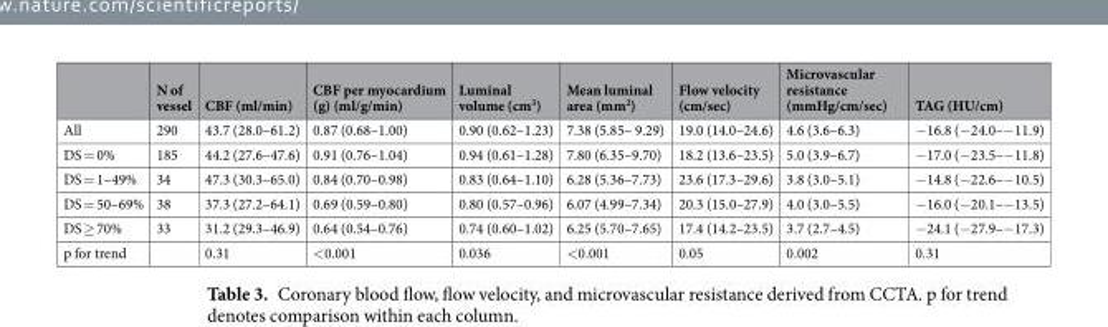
<table><thead><tr><td></td><td>N of vessel</td><td>CBF (ml/min)</td><td>CBF per myocardium (g) (ml/g/min)</td><td>Luminal volume (cm<sup>3</sup>)</td><td>Mean luminal area (mm<sup>2</sup>)</td><td>Flow velocity (cm/sec)</td><td>Microvascular resistance (mmHg/cm/sec)</td><td>TAG (HU/cm)</td></tr></thead><tbody><tr><td>All</td><td>290</td><td>43.7 (28.0–61.2)</td><td>0.87 (0.68–1.00)</td><td>0.90 (0.62–1.23)</td><td>7.38 (5.85– 9.29)</td><td>19.0 (14.0–24.6)</td><td>4.6 (3.6–6.3)</td><td>−16.8 (−24.0–−11.9)</td></tr><tr><td>DS = 0%</td><td>185</td><td>44.2 (27.6–47.6)</td><td>0.91 (0.76–1.04)</td><td>0.94 (0.61–1.28)</td><td>7.80 (6.35–9.70)</td><td>18.2 (13.6–23.5)</td><td>5.0 (3.9–6.7)</td><td>−17.0 (−23.5–−11.8)</td></tr><tr><td>DS = 1–49%</td><td>34</td><td>47.3 (30.3–65.0)</td><td>0.84 (0.70–0.98)</td><td>0.83 (0.64–1.10)</td><td>6.28 (5.36–7.73)</td><td>23.6 (17.3–29.6)</td><td>3.8 (3.0–5.1)</td><td>−14.8 (−22.6–−10.5)</td></tr><tr><td>DS = 50–69%</td><td>38</td><td>37.3 (27.2–64.1)</td><td>0.69 (0.59–0.80)</td><td>0.80 (0.57–0.96)</td><td>6.07 (4.99–7.34)</td><td>20.3 (15.0–27.9)</td><td>4.0 (3.0–5.5)</td><td>−16.0 (−20.1–−13.5)</td></tr><tr><td>DS ≥ 70%</td><td>33</td><td>31.2 (29.3–46.9)</td><td>0.64 (0.54–0.76)</td><td>0.74 (0.60–1.02)</td><td>6.25 (5.70–7.65)</td><td>17.4 (14.2–23.5)</td><td>3.7 (2.7–4.5)</td><td>−24.1 (−27.9–−17.3)</td></tr><tr><td>p for trend</td><td></td><td>0.31</td><td>&lt;0.001</td><td>0.036</td><td>&lt;0.001</td><td>0.05</td><td>0.002</td><td>0.31</td></tr></tbody></table>